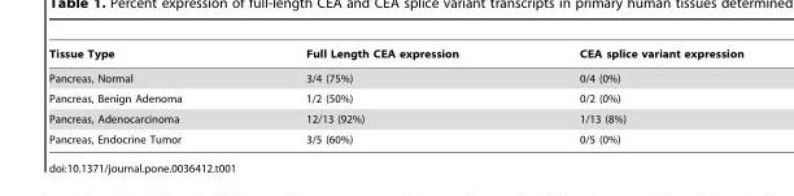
<table><thead><tr><td>Tissue Type</td><td>Full Length CEA expression</td><td>CEA splice variant expression</td></tr></thead><tbody><tr><td>Pancreas, Normal</td><td>3/4 (75%)</td><td>0/4 (0%)</td></tr><tr><td>Pancreas, Benign Adenoma</td><td>1/2 (50%)</td><td>0/2 (0%)</td></tr><tr><td>Pancreas, Adenocarcinoma</td><td>12/13 (92%)</td><td>1/13 (8%)</td></tr><tr><td>Pancreas, Endocrine Tumor</td><td>3/5 (60%)</td><td>0/5 (0%)</td></tr></tbody></table>